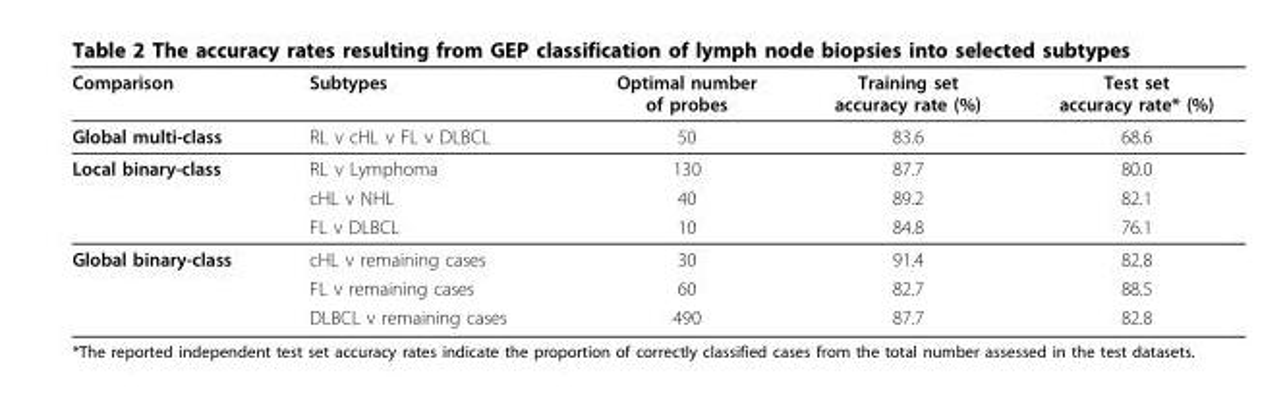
<table><thead><tr><td>Comparison</td><td>Subtypes</td><td>Optimal number of probes</td><td>Training set accuracy rate (%)</td><td>Test set accuracy rate* (%)</td></tr></thead><tbody><tr><td>Global multi-class</td><td>RL v cHL v FL v DLBCL</td><td>50</td><td>83.6</td><td>68.6</td></tr><tr><td rowspan="3">Local binary-class</td><td>RL v Lymphoma</td><td>130</td><td>87.7</td><td>80.0</td></tr><tr><td>cHL v NHL</td><td>40</td><td>89.2</td><td>82.1</td></tr><tr><td>FL v DLBCL</td><td>10</td><td>84.8</td><td>76.1</td></tr><tr><td rowspan="3">Global binary-class</td><td>cHL v remaining cases</td><td>30</td><td>91.4</td><td>82.8</td></tr><tr><td>FL v remaining cases</td><td>60</td><td>82.7</td><td>88.5</td></tr><tr><td>DLBCL v remaining cases</td><td>490</td><td>87.7</td><td>82.8</td></tr></tbody></table>